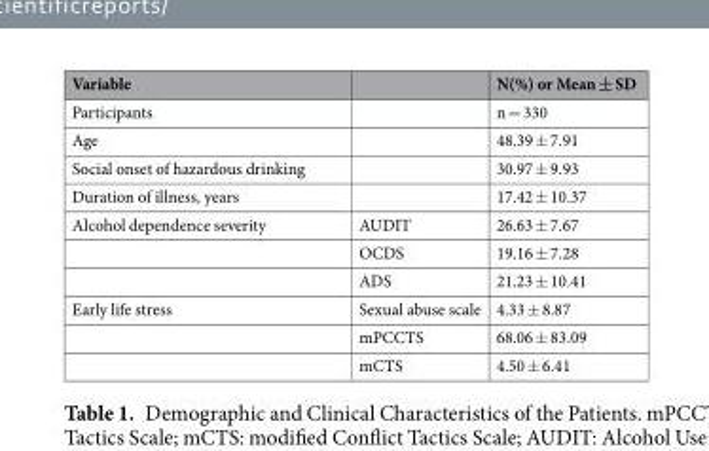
<table><thead><tr><td>Variable</td><td></td><td>N(%) or Mean ± SD</td></tr></thead><tbody><tr><td>Participants</td><td></td><td>n = 330</td></tr><tr><td>Age</td><td></td><td>48.39 ± 7.91</td></tr><tr><td>Social onset of hazardous drinking</td><td></td><td>30.97 ± 9.93</td></tr><tr><td>Duration of illness, years</td><td></td><td>17.42 ± 10.37</td></tr><tr><td rowspan="3">Alcohol dependence severity</td><td>AUDIT</td><td>26.63 ± 7.67</td></tr><tr><td>OCDS</td><td>19.16 ± 7.28</td></tr><tr><td>ADS</td><td>21.23 ± 10.41</td></tr><tr><td rowspan="3">Early life stress</td><td>Sexual abuse scale</td><td>4.33 ± 8.87</td></tr><tr><td>mPCCTS</td><td>68.06 ± 83.09</td></tr><tr><td>mCTS</td><td>4.50 ± 6.41</td></tr></tbody></table>